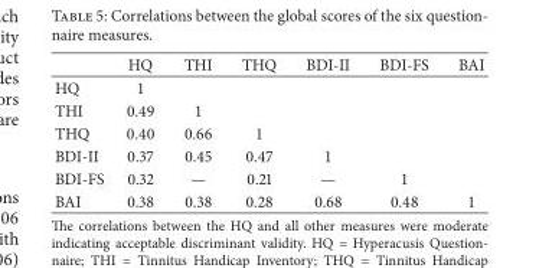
<table><thead><tr><td></td><td>HQ</td><td>THI</td><td>THQ</td><td>BDI-II</td><td>BDI-FS</td><td>BAI</td></tr></thead><tbody><tr><td>HQ</td><td>1</td><td></td><td></td><td></td><td></td><td></td></tr><tr><td>THI</td><td>0.49</td><td>1</td><td></td><td></td><td></td><td></td></tr><tr><td>THQ</td><td>0.40</td><td>0.66</td><td>1</td><td></td><td></td><td></td></tr><tr><td>BDI-II</td><td>0.37</td><td>0.45</td><td>0.47</td><td>1</td><td></td><td></td></tr><tr><td>BDI-FS</td><td>0.32</td><td>—</td><td>0.21</td><td>—</td><td>1</td><td></td></tr><tr><td>BAI</td><td>0.38</td><td>0.38</td><td>0.28</td><td>0.68</td><td>0.48</td><td>1</td></tr></tbody></table>